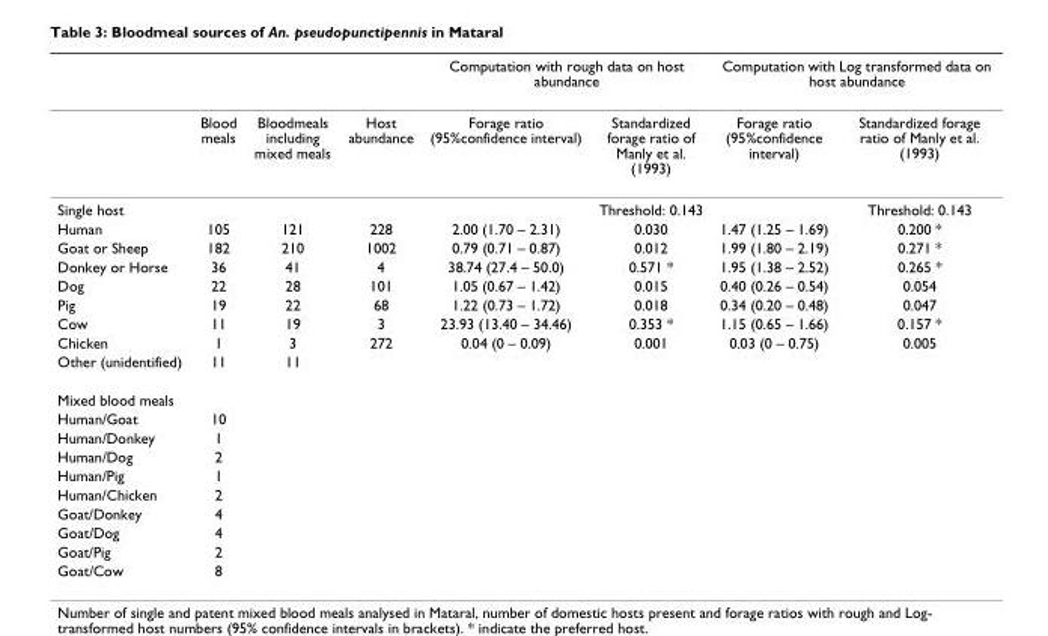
<table><thead><tr><td rowspan="2"></td><td rowspan="2">Blood meals</td><td rowspan="2">Bloodmeals including mixed meals</td><td rowspan="2">Host abundance</td><td colspan="2">Computation with rough data on host abundance</td><td colspan="2">Computation with Log transformed data on host abundance</td></tr><tr><td>Forage ratio (95%confidence interval)</td><td>Standardized forage ratio of Manly et al. (1993)</td><td>Forage ratio (95%confidence interval)</td><td>Standardized forage ratio of Manly et al. (1993)</td></tr></thead><tbody><tr><td>Single host</td><td></td><td></td><td></td><td></td><td>Threshold: 0.143</td><td></td><td>Threshold: 0.143</td></tr><tr><td>Human</td><td>105</td><td>121</td><td>228</td><td>2.00 (1.70 – 2.31)</td><td>0.030</td><td>1.47 (1.25 – 1.69)</td><td>0.200 *</td></tr><tr><td>Goat or Sheep</td><td>182</td><td>210</td><td>1002</td><td>0.79 (0.71 – 0.87)</td><td>0.012</td><td>1.99 (1.80 – 2.19)</td><td>0.271 *</td></tr><tr><td>Donkey or Horse</td><td>36</td><td>41</td><td>4</td><td>38.74 (27.4 – 50.0)</td><td>0.571 *</td><td>1.95 (1.38 – 2.52)</td><td>0.265 *</td></tr><tr><td>Dog</td><td>22</td><td>28</td><td>101</td><td>1.05 (0.67 – 1.42)</td><td>0.015</td><td>0.40 (0.26 – 0.54)</td><td>0.054</td></tr><tr><td>Pig</td><td>19</td><td>22</td><td>68</td><td>1.22 (0.73 – 1.72)</td><td>0.018</td><td>0.34 (0.20 – 0.48)</td><td>0.047</td></tr><tr><td>Cow</td><td>11</td><td>19</td><td>3</td><td>23.93 (13.40 – 34.46)</td><td>0.353 *</td><td>1.15 (0.65 – 1.66)</td><td>0.157 *</td></tr><tr><td>Chicken</td><td>1</td><td>3</td><td>272</td><td>0.04 (0 – 0.09)</td><td>0.001</td><td>0.03 (0 – 0.75)</td><td>0.005</td></tr><tr><td>Other (unidentified)</td><td>11</td><td>11</td><td></td><td></td><td></td><td></td><td></td></tr><tr><td colspan="8">Mixed blood meals</td></tr><tr><td>Human/Goat</td><td>10</td><td></td><td></td><td></td><td></td><td></td><td></td></tr><tr><td>Human/Donkey</td><td>1</td><td></td><td></td><td></td><td></td><td></td><td></td></tr><tr><td>Human/Dog</td><td>2</td><td></td><td></td><td></td><td></td><td></td><td></td></tr><tr><td>Human/Pig</td><td>1</td><td></td><td></td><td></td><td></td><td></td><td></td></tr><tr><td>Human/Chicken</td><td>2</td><td></td><td></td><td></td><td></td><td></td><td></td></tr><tr><td>Goat/Donkey</td><td>4</td><td></td><td></td><td></td><td></td><td></td><td></td></tr><tr><td>Goat/Dog</td><td>4</td><td></td><td></td><td></td><td></td><td></td><td></td></tr><tr><td>Goat/Pig</td><td>2</td><td></td><td></td><td></td><td></td><td></td><td></td></tr><tr><td>Goat/Cow</td><td>8</td><td></td><td></td><td></td><td></td><td></td><td></td></tr></tbody></table>